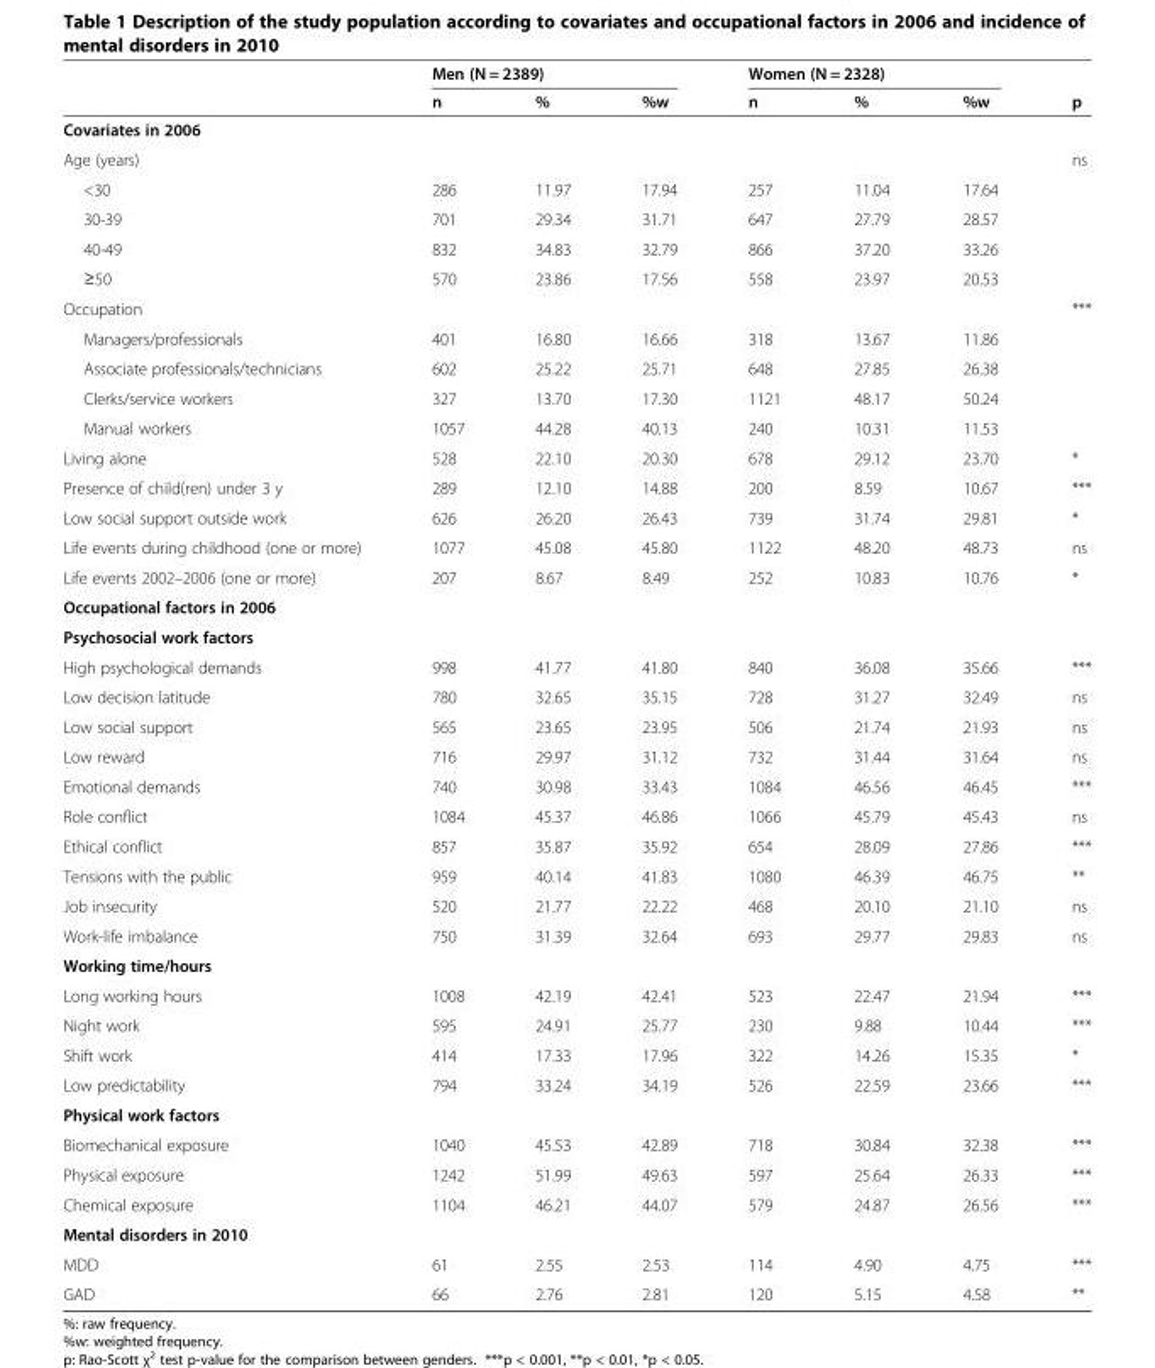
<table><thead><tr><td rowspan="2"></td><td colspan="3">Men (N = 2389)</td><td colspan="3">Women (N = 2328)</td><td rowspan="2">p</td></tr><tr><td>n</td><td>%</td><td>%w</td><td>n</td><td>%</td><td>%w</td></tr></thead><tbody><tr><td colspan="8">Covariates in 2006</td></tr><tr><td>Age (years)</td><td></td><td></td><td></td><td></td><td></td><td></td><td>ns</td></tr><tr><td>&lt;30</td><td>286</td><td>11.97</td><td>17.94</td><td>257</td><td>11.04</td><td>17.64</td><td></td></tr><tr><td>30-39</td><td>701</td><td>29.34</td><td>31.71</td><td>647</td><td>27.79</td><td>28.57</td><td></td></tr><tr><td>40-49</td><td>832</td><td>34.83</td><td>32.79</td><td>866</td><td>37.20</td><td>33.26</td><td></td></tr><tr><td>≥50</td><td>570</td><td>23.86</td><td>17.56</td><td>558</td><td>23.97</td><td>20.53</td><td></td></tr><tr><td>Occupation</td><td></td><td></td><td></td><td></td><td></td><td></td><td>***</td></tr><tr><td>Managers/professionals</td><td>401</td><td>16.80</td><td>16.66</td><td>318</td><td>13.67</td><td>11.86</td><td></td></tr><tr><td>Associate professionals/technicians</td><td>602</td><td>25.22</td><td>25.71</td><td>648</td><td>27.85</td><td>26.38</td><td></td></tr><tr><td>Clerks/service workers</td><td>327</td><td>13.70</td><td>17.30</td><td>1121</td><td>48.17</td><td>50.24</td><td></td></tr><tr><td>Manual workers</td><td>1057</td><td>44.28</td><td>40.13</td><td>240</td><td>10.31</td><td>11.53</td><td></td></tr><tr><td>Living alone</td><td>528</td><td>22.10</td><td>20.30</td><td>678</td><td>29.12</td><td>23.70</td><td>*</td></tr><tr><td>Presence of child(ren) under 3 y</td><td>289</td><td>12.10</td><td>14.88</td><td>200</td><td>8.59</td><td>10.67</td><td>***</td></tr><tr><td>Low social support outside work</td><td>626</td><td>26.20</td><td>26.43</td><td>739</td><td>31.74</td><td>29.81</td><td>*</td></tr><tr><td>Life events during childhood (one or more)</td><td>1077</td><td>45.08</td><td>45.80</td><td>1122</td><td>48.20</td><td>48.73</td><td>ns</td></tr><tr><td>Life events 2002–2006 (one or more)</td><td>207</td><td>8.67</td><td>8.49</td><td>252</td><td>10.83</td><td>10.76</td><td>*</td></tr><tr><td colspan="8">Occupational factors in 2006</td></tr><tr><td colspan="8">Psychosocial work factors</td></tr><tr><td>High psychological demands</td><td>998</td><td>41.77</td><td>41.80</td><td>840</td><td>36.08</td><td>35.66</td><td>***</td></tr><tr><td>Low decision latitude</td><td>780</td><td>32.65</td><td>35.15</td><td>728</td><td>31.27</td><td>32.49</td><td>ns</td></tr><tr><td>Low social support</td><td>565</td><td>23.65</td><td>23.95</td><td>506</td><td>21.74</td><td>21.93</td><td>ns</td></tr><tr><td>Low reward</td><td>716</td><td>29.97</td><td>31.12</td><td>732</td><td>31.44</td><td>31.64</td><td>ns</td></tr><tr><td>Emotional demands</td><td>740</td><td>30.98</td><td>33.43</td><td>1084</td><td>46.56</td><td>46.45</td><td>***</td></tr><tr><td>Role conflict</td><td>1084</td><td>45.37</td><td>46.86</td><td>1066</td><td>45.79</td><td>45.43</td><td>ns</td></tr><tr><td>Ethical conflict</td><td>857</td><td>35.87</td><td>35.92</td><td>654</td><td>28.09</td><td>27.86</td><td>***</td></tr><tr><td>Tensions with the public</td><td>959</td><td>40.14</td><td>41.83</td><td>1080</td><td>46.39</td><td>46.75</td><td>**</td></tr><tr><td>Job insecurity</td><td>520</td><td>21.77</td><td>22.22</td><td>468</td><td>20.10</td><td>21.10</td><td>ns</td></tr><tr><td>Work-life imbalance</td><td>750</td><td>31.39</td><td>32.64</td><td>693</td><td>29.77</td><td>29.83</td><td>ns</td></tr><tr><td colspan="8">Working time/hours</td></tr><tr><td>Long working hours</td><td>1008</td><td>42.19</td><td>42.41</td><td>523</td><td>22.47</td><td>21.94</td><td>***</td></tr><tr><td>Night work</td><td>595</td><td>24.91</td><td>25.77</td><td>230</td><td>9.88</td><td>10.44</td><td>***</td></tr><tr><td>Shift work</td><td>414</td><td>17.33</td><td>17.96</td><td>322</td><td>14.26</td><td>15.35</td><td>*</td></tr><tr><td>Low predictability</td><td>794</td><td>33.24</td><td>34.19</td><td>526</td><td>22.59</td><td>23.66</td><td>***</td></tr><tr><td colspan="8">Physical work factors</td></tr><tr><td>Biomechanical exposure</td><td>1040</td><td>45.53</td><td>42.89</td><td>718</td><td>30.84</td><td>32.38</td><td>***</td></tr><tr><td>Physical exposure</td><td>1242</td><td>51.99</td><td>49.63</td><td>597</td><td>25.64</td><td>26.33</td><td>***</td></tr><tr><td>Chemical exposure</td><td>1104</td><td>46.21</td><td>44.07</td><td>579</td><td>24.87</td><td>26.56</td><td>***</td></tr><tr><td colspan="8">Mental disorders in 2010</td></tr><tr><td>MDD</td><td>61</td><td>2.55</td><td>2.53</td><td>114</td><td>4.90</td><td>4.75</td><td>***</td></tr><tr><td>GAD</td><td>66</td><td>2.76</td><td>2.81</td><td>120</td><td>5.15</td><td>4.58</td><td>**</td></tr></tbody></table>